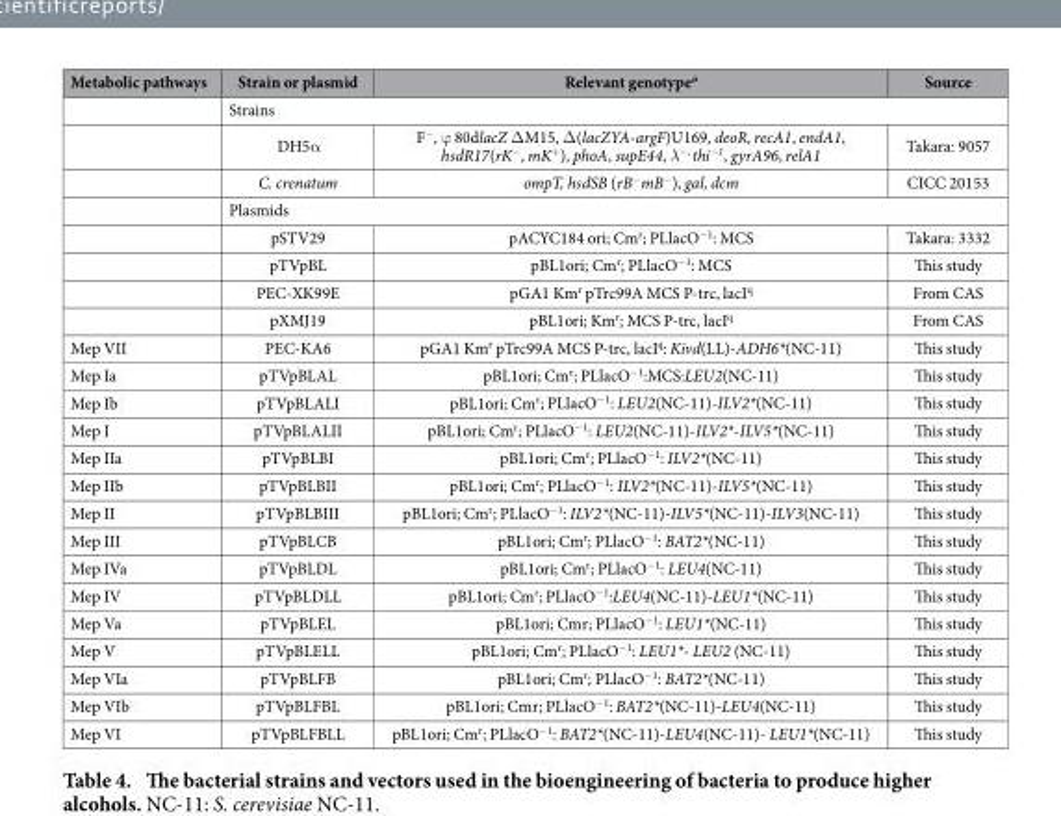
<table><thead><tr><td>Metabolic pathways</td><td>Strain or plasmid</td><td>Relevant genotype<sup>a</sup></td><td>Source</td></tr></thead><tbody><tr><td></td><td colspan="3">Strains</td></tr><tr><td></td><td>DH5α</td><td>F<sup>−</sup>, ϕ 80dlacZ Δ M15, Δ (lacZYA-argF)U169, deoR, recA1, endA1, hsdR17(rK<sup>−</sup>, mK<sup>+</sup>), phoA, supE44, λ<sup>−,</sup> thi<sup>−1</sup>, gyrA96, relA1</td><td>Takara: 9057</td></tr><tr><td></td><td>C. crenatum</td><td>ompT, hsdSB (rB<sup>−</sup>mB<sup>−</sup>), gal, dcm</td><td>CICC 20153</td></tr><tr><td></td><td colspan="3">Plasmids</td></tr><tr><td></td><td>pSTV29</td><td>pACYC184 ori; Cm<sup>r</sup>; PLlacO<sup>−1</sup>: MCS</td><td>Takara: 3332</td></tr><tr><td></td><td>pTVpBL</td><td>pBL1ori; Cm<sup>r</sup>; PLlacO<sup>−1</sup>: MCS</td><td>This study</td></tr><tr><td></td><td>PEC-XK99E</td><td>pGA1 Km<sup>r</sup> pTrc99A MCS P-trc, lacI<sup>q</sup></td><td>From CAS</td></tr><tr><td></td><td>pXMJ19</td><td>pBL1ori; Km<sup>r</sup>; MCS P-trc, lacI<sup>q</sup></td><td>From CAS</td></tr><tr><td>Mep VII</td><td>PEC-KA6</td><td>pGA1 Km<sup>r</sup> pTrc99A MCS P-trc, lacI<sup>q</sup>: Kivd(LL)-ADH6*(NC-11)</td><td>This study</td></tr><tr><td>Mep Ia</td><td>pTVpBLAL</td><td>pBL1ori; Cm<sup>r</sup>; PLlacO<sup>−1</sup>:MCS:LEU2(NC-11)</td><td>This study</td></tr><tr><td>Mep Ib</td><td>pTVpBLALI</td><td>pBL1ori; Cm<sup>r</sup>; PLlacO<sup>−1</sup>: LEU2(NC-11)-ILV2*(NC-11)</td><td>This study</td></tr><tr><td>Mep I</td><td>pTVpBLALII</td><td>pBL1ori; Cm<sup>r</sup>; PLlacO<sup>−1</sup>: LEU2(NC-11)-ILV2*-ILV5*(NC-11)</td><td>This study</td></tr><tr><td>Mep IIa</td><td>pTVpBLBI</td><td>pBL1ori; Cm<sup>r</sup>; PLlacO<sup>−1</sup>: ILV2*(NC-11)</td><td>This study</td></tr><tr><td>Mep IIb</td><td>pTVpBLBII</td><td>pBL1ori; Cm<sup>r</sup>; PLlacO<sup>−1</sup>: ILV2*(NC-11)-ILV5*(NC-11)</td><td>This study</td></tr><tr><td>Mep II</td><td>pTVpBLBIII</td><td>pBL1ori; Cm<sup>r</sup>; PLlacO<sup>−1</sup>: ILV2*(NC-11)-ILV5*(NC-11)-ILV3(NC-11)</td><td>This study</td></tr><tr><td>Mep III</td><td>pTVpBLCB</td><td>pBL1ori; Cm<sup>r</sup>; PLlacO<sup>−1</sup>: BAT2*(NC-11)</td><td>This study</td></tr><tr><td>Mep IVa</td><td>pTVpBLDL</td><td>pBL1ori; Cm<sup>r</sup>; PLlacO<sup>−1</sup>: LEU4(NC-11)</td><td>This study</td></tr><tr><td>Mep IV</td><td>pTVpBLDLL</td><td>pBL1ori; Cm<sup>r</sup>; PLlacO<sup>−1</sup>:LEU4(NC-11)-LEU1*(NC-11)</td><td>This study</td></tr><tr><td>Mep Va</td><td>pTVpBLEL</td><td>pBL1ori; Cmr; PLlacO<sup>−1</sup>: LEU1*(NC-11)</td><td>This study</td></tr><tr><td>Mep V</td><td>pTVpBLELL</td><td>pBL1ori; Cm<sup>r</sup>; PLlacO<sup>−1</sup>: LEU1*- LEU2 (NC-11)</td><td>This study</td></tr><tr><td>Mep VIa</td><td>pTVpBLFB</td><td>pBL1ori; Cm<sup>r</sup>; PLlacO<sup>−1</sup>: BAT2*(NC-11)</td><td>This study</td></tr><tr><td>Mep VIb</td><td>pTVpBLFBL</td><td>pBL1ori; Cmr; PLlacO<sup>−1</sup>: BAT2*(NC-11)-LEU4(NC-11)</td><td>This study</td></tr><tr><td>Mep VI</td><td>pTVpBLFBLL</td><td>pBL1ori; Cm<sup>r</sup>; PLlacO<sup>−1</sup>: BAT2*(NC-11)-LEU4(NC-11)- LEU1*(NC-11)</td><td>This study</td></tr></tbody></table>